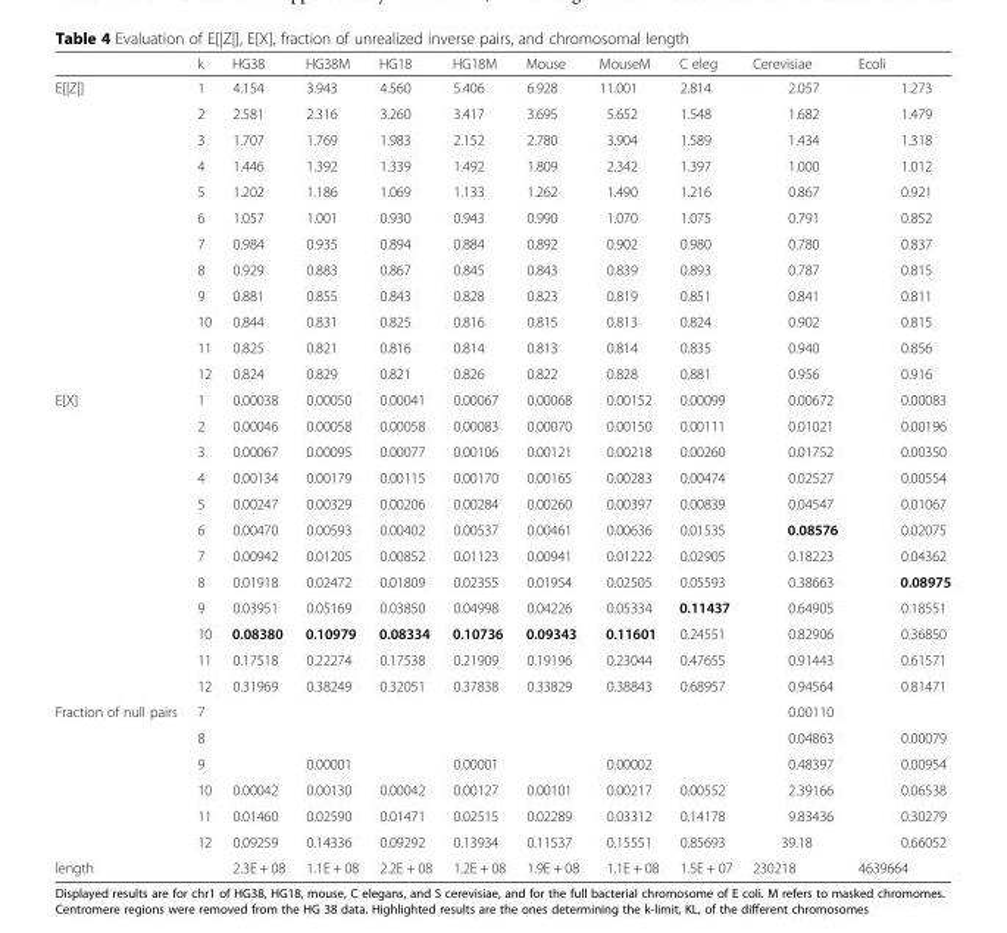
<table><thead><tr><td></td><td>k</td><td>HG38</td><td>HG38M</td><td>HG18</td><td>HG18M</td><td>Mouse</td><td>MouseM</td><td>C eleg</td><td>Cerevisiae</td><td>Ecoli</td></tr></thead><tbody><tr><td rowspan="12">E[|Z|]</td><td>1</td><td>4.154</td><td>3.943</td><td>4.560</td><td>5.406</td><td>6.928</td><td>11.001</td><td>2.814</td><td>2.057</td><td>1.273</td></tr><tr><td>2</td><td>2.581</td><td>2.316</td><td>3.260</td><td>3.417</td><td>3.695</td><td>5.652</td><td>1.548</td><td>1.682</td><td>1.479</td></tr><tr><td>3</td><td>1.707</td><td>1.769</td><td>1.983</td><td>2.152</td><td>2.780</td><td>3.904</td><td>1.589</td><td>1.434</td><td>1.318</td></tr><tr><td>4</td><td>1.446</td><td>1.392</td><td>1.339</td><td>1.492</td><td>1.809</td><td>2.342</td><td>1.397</td><td>1.000</td><td>1.012</td></tr><tr><td>5</td><td>1.202</td><td>1.186</td><td>1.069</td><td>1.133</td><td>1.262</td><td>1.490</td><td>1.216</td><td>0.867</td><td>0.921</td></tr><tr><td>6</td><td>1.057</td><td>1.001</td><td>0.930</td><td>0.943</td><td>0.990</td><td>1.070</td><td>1.075</td><td>0.791</td><td>0.852</td></tr><tr><td>7</td><td>0.984</td><td>0.935</td><td>0.894</td><td>0.884</td><td>0.892</td><td>0.902</td><td>0.980</td><td>0.780</td><td>0.837</td></tr><tr><td>8</td><td>0.929</td><td>0.883</td><td>0.867</td><td>0.845</td><td>0.843</td><td>0.839</td><td>0.893</td><td>0.787</td><td>0.815</td></tr><tr><td>9</td><td>0.881</td><td>0.855</td><td>0.843</td><td>0.828</td><td>0.823</td><td>0.819</td><td>0.851</td><td>0.841</td><td>0.811</td></tr><tr><td>10</td><td>0.844</td><td>0.831</td><td>0.825</td><td>0.816</td><td>0.815</td><td>0.813</td><td>0.824</td><td>0.902</td><td>0.815</td></tr><tr><td>11</td><td>0.825</td><td>0.821</td><td>0.816</td><td>0.814</td><td>0.813</td><td>0.814</td><td>0.835</td><td>0.940</td><td>0.856</td></tr><tr><td>12</td><td>0.824</td><td>0.829</td><td>0.821</td><td>0.826</td><td>0.822</td><td>0.828</td><td>0.881</td><td>0.956</td><td>0.916</td></tr><tr><td rowspan="12">E[X]</td><td>1</td><td>0.00038</td><td>0.00050</td><td>0.00041</td><td>0.00067</td><td>0.00068</td><td>0.00152</td><td>0.00099</td><td>0.00672</td><td>0.00083</td></tr><tr><td>2</td><td>0.00046</td><td>0.00058</td><td>0.00058</td><td>0.00083</td><td>0.00070</td><td>0.00150</td><td>0.00111</td><td>0.01021</td><td>0.00196</td></tr><tr><td>3</td><td>0.00067</td><td>0.00095</td><td>0.00077</td><td>0.00106</td><td>0.00121</td><td>0.00218</td><td>0.00260</td><td>0.01752</td><td>0.00350</td></tr><tr><td>4</td><td>0.00134</td><td>0.00179</td><td>0.00115</td><td>0.00170</td><td>0.00165</td><td>0.00283</td><td>0.00474</td><td>0.02527</td><td>0.00554</td></tr><tr><td>5</td><td>0.00247</td><td>0.00329</td><td>0.00206</td><td>0.00284</td><td>0.00260</td><td>0.00397</td><td>0.00839</td><td>0.04547</td><td>0.01067</td></tr><tr><td>6</td><td>0.00470</td><td>0.00593</td><td>0.00402</td><td>0.00537</td><td>0.00461</td><td>0.00636</td><td>0.01535</td><td>0.08576</td><td>0.02075</td></tr><tr><td>7</td><td>0.00942</td><td>0.01205</td><td>0.00852</td><td>0.01123</td><td>0.00941</td><td>0.01222</td><td>0.02905</td><td>0.18223</td><td>0.04362</td></tr><tr><td>8</td><td>0.01918</td><td>0.02472</td><td>0.01809</td><td>0.02355</td><td>0.01954</td><td>0.02505</td><td>0.05593</td><td>0.38663</td><td>0.08975</td></tr><tr><td>9</td><td>0.03951</td><td>0.05169</td><td>0.03850</td><td>0.04998</td><td>0.04226</td><td>0.05334</td><td>0.11437</td><td>0.64905</td><td>0.18551</td></tr><tr><td>10</td><td>0.08380</td><td>0.10979</td><td>0.08334</td><td>0.10736</td><td>0.09343</td><td>0.11601</td><td>0.24551</td><td>0.82906</td><td>0.36850</td></tr><tr><td>11</td><td>0.17518</td><td>0.22274</td><td>0.17538</td><td>0.21909</td><td>0.19196</td><td>0.23044</td><td>0.47655</td><td>0.91443</td><td>0.61571</td></tr><tr><td>12</td><td>0.31969</td><td>0.38249</td><td>0.32051</td><td>0.37838</td><td>0.33829</td><td>0.38843</td><td>0.68957</td><td>0.94564</td><td>0.81471</td></tr><tr><td rowspan="6">Fraction of null pairs</td><td>7</td><td></td><td></td><td></td><td></td><td></td><td></td><td></td><td>0.00110</td><td></td></tr><tr><td>8</td><td></td><td></td><td></td><td></td><td></td><td></td><td></td><td>0.04863</td><td>0.00079</td></tr><tr><td>9</td><td></td><td>0.00001</td><td></td><td>0.00001</td><td></td><td>0.00002</td><td></td><td>0.48397</td><td>0.00954</td></tr><tr><td>10</td><td>0.00042</td><td>0.00130</td><td>0.00042</td><td>0.00127</td><td>0.00101</td><td>0.00217</td><td>0.00552</td><td>2.39166</td><td>0.06538</td></tr><tr><td>11</td><td>0.01460</td><td>0.02590</td><td>0.01471</td><td>0.02515</td><td>0.02289</td><td>0.03312</td><td>0.14178</td><td>9.83436</td><td>0.30279</td></tr><tr><td>12</td><td>0.09259</td><td>0.14336</td><td>0.09292</td><td>0.13934</td><td>0.11537</td><td>0.15551</td><td>0.85693</td><td>39.18</td><td>0.66052</td></tr><tr><td>length</td><td></td><td>2.3E + 08</td><td>1.1E + 08</td><td>2.2E + 08</td><td>1.2E + 08</td><td>1.9E + 08</td><td>1.1E + 08</td><td>1.5E + 07</td><td>230218</td><td>4639664</td></tr></tbody></table>